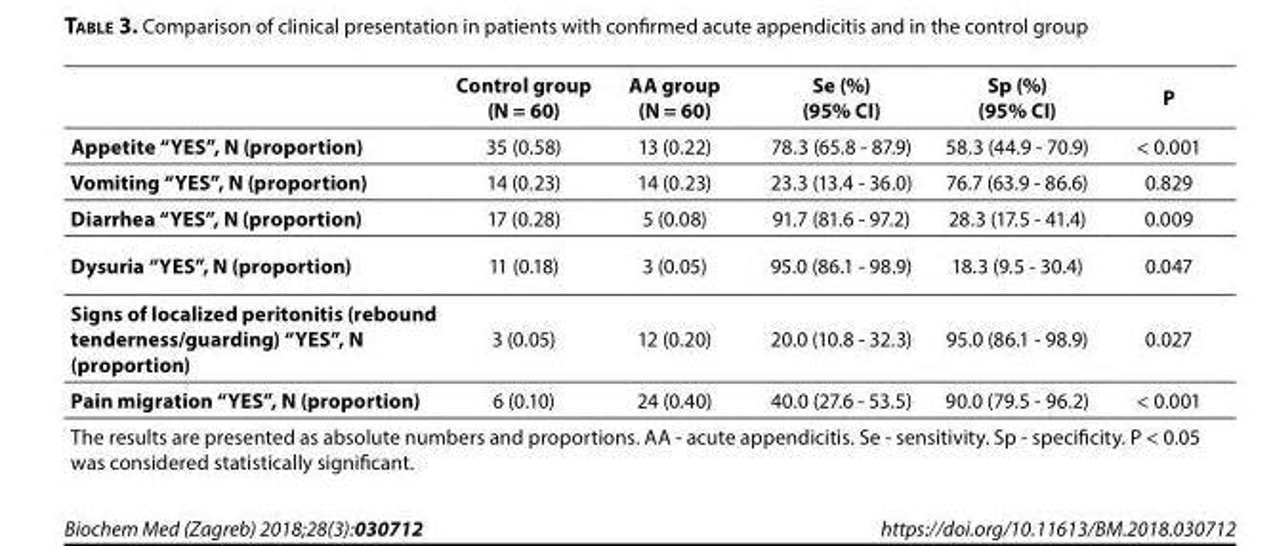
<table><thead><tr><td></td><td>Control group (N = 60)</td><td>AA group (N = 60)</td><td>Se (%) (95% CI)</td><td>Sp (%) (95% CI)</td><td>P</td></tr></thead><tbody><tr><td>Appetite “YES”, N (proportion)</td><td>35 (0.58)</td><td>13 (0.22)</td><td>78.3 (65.8 - 87.9)</td><td>58.3 (44.9 - 70.9)</td><td>&lt; 0.001</td></tr><tr><td>Vomiting “YES”, N (proportion)</td><td>14 (0.23)</td><td>14 (0.23)</td><td>23.3 (13.4 - 36.0)</td><td>76.7 (63.9 - 86.6)</td><td>0.829</td></tr><tr><td>Diarrhea “YES”, N (proportion)</td><td>17 (0.28)</td><td>5 (0.08)</td><td>91.7 (81.6 - 97.2)</td><td>28.3 (17.5 - 41.4)</td><td>0.009</td></tr><tr><td>Dysuria “YES”, N (proportion)</td><td>11 (0.18)</td><td>3 (0.05)</td><td>95.0 (86.1 - 98.9)</td><td>18.3 (9.5 - 30.4)</td><td>0.047</td></tr><tr><td>Signs of localized peritonitis (rebound tenderness/guarding) “YES”, N (proportion)</td><td>3 (0.05)</td><td>12 (0.20)</td><td>20.0 (10.8 - 32.3)</td><td>95.0 (86.1 - 98.9)</td><td>0.027</td></tr><tr><td>Pain migration “YES”, N (proportion)</td><td>6 (0.10)</td><td>24 (0.40)</td><td>40.0 (27.6 - 53.5)</td><td>90.0 (79.5 - 96.2)</td><td>&lt; 0.001</td></tr><tr><td colspan="6">The results are presented as absolute numbers and proportions. AA - acute appendicitis. Se - sensitivity. Sp - specificity. P &lt; 0.05 was considered statistically significant.</td></tr></tbody></table>